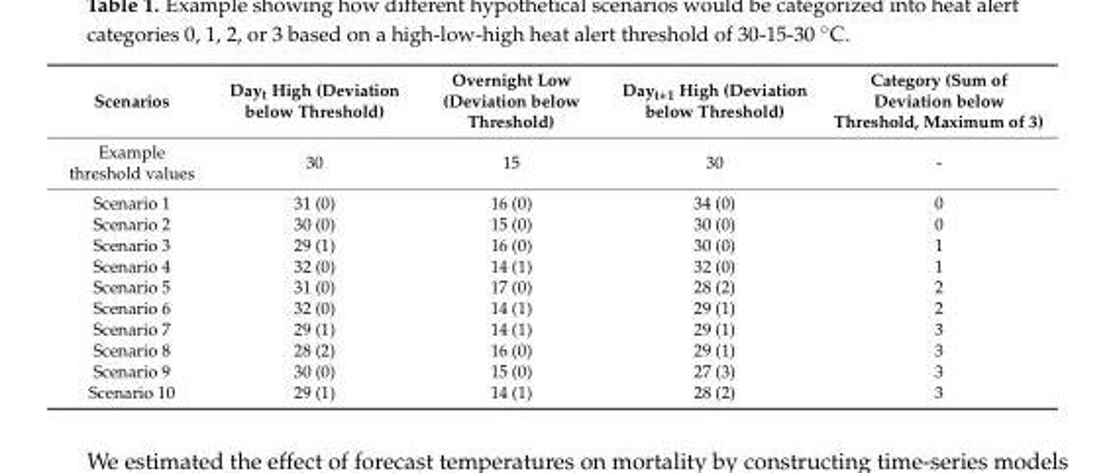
<table><thead><tr><td>Scenarios</td><td>Day<sub>t</sub> High (Deviation below Threshold)</td><td>Overnight Low (Deviation below Threshold)</td><td>Day<sub>t+1</sub> High (Deviation below Threshold)</td><td>Category (Sum of Deviation below Threshold, Maximum of 3)</td></tr></thead><tbody><tr><td>Example threshold values</td><td>30</td><td>15</td><td>30</td><td>-</td></tr><tr><td>Scenario 1</td><td>31 (0)</td><td>16 (0)</td><td>34 (0)</td><td>0</td></tr><tr><td>Scenario 2</td><td>30 (0)</td><td>15 (0)</td><td>30 (0)</td><td>0</td></tr><tr><td>Scenario 3</td><td>29 (1)</td><td>16 (0)</td><td>30 (0)</td><td>1</td></tr><tr><td>Scenario 4</td><td>32 (0)</td><td>14 (1)</td><td>32 (0)</td><td>1</td></tr><tr><td>Scenario 5</td><td>31 (0)</td><td>17 (0)</td><td>28 (2)</td><td>2</td></tr><tr><td>Scenario 6</td><td>32 (0)</td><td>14 (1)</td><td>29 (1)</td><td>2</td></tr><tr><td>Scenario 7</td><td>29 (1)</td><td>14 (1)</td><td>29 (1)</td><td>3</td></tr><tr><td>Scenario 8</td><td>28 (2)</td><td>16 (0)</td><td>29 (1)</td><td>3</td></tr><tr><td>Scenario 9</td><td>30 (0)</td><td>15 (0)</td><td>27 (3)</td><td>3</td></tr><tr><td>Scenario 10</td><td>29 (1)</td><td>14 (1)</td><td>28 (2)</td><td>3</td></tr></tbody></table>